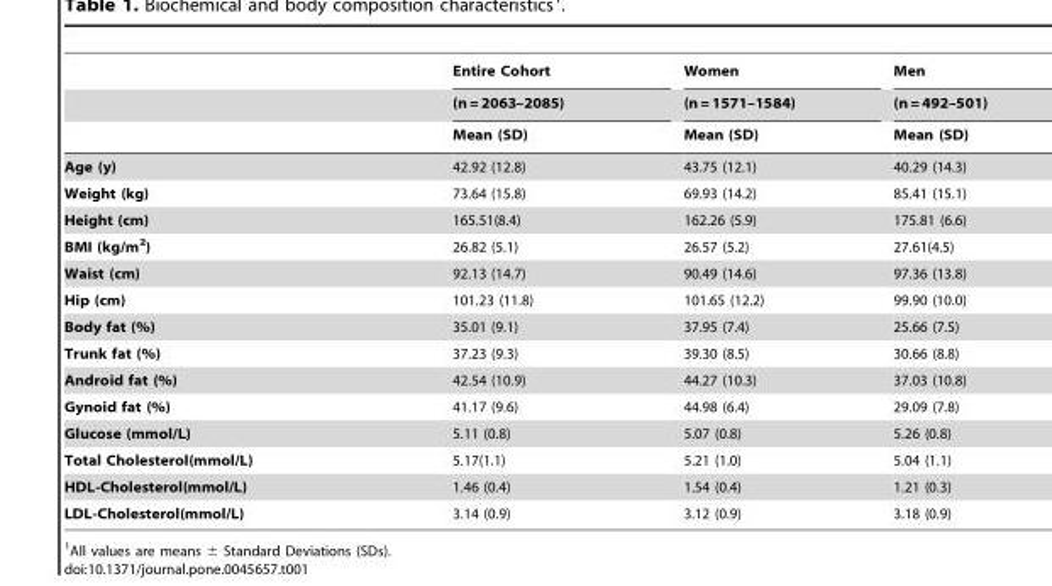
<table><thead><tr><td rowspan="3"></td><td rowspan="3">Entire Cohort (n = 2063–2085) Mean (SD)</td><td rowspan="3">Women (n = 1571–1584) Mean (SD)</td><td rowspan="3">Men (n = 492–501) Mean (SD)</td></tr><tr></tr><tr></tr></thead><tbody><tr><td>Age (y)</td><td>42.92 (12.8)</td><td>43.75 (12.1)</td><td>40.29 (14.3)</td></tr><tr><td>Weight (kg)</td><td>73.64 (15.8)</td><td>69.93 (14.2)</td><td>85.41 (15.1)</td></tr><tr><td>Height (cm)</td><td>165.51(8.4)</td><td>162.26 (5.9)</td><td>175.81 (6.6)</td></tr><tr><td>BMI (kg/m<sup>2</sup>)</td><td>26.82 (5.1)</td><td>26.57 (5.2)</td><td>27.61(4.5)</td></tr><tr><td>Waist (cm)</td><td>92.13 (14.7)</td><td>90.49 (14.6)</td><td>97.36 (13.8)</td></tr><tr><td>Hip (cm)</td><td>101.23 (11.8)</td><td>101.65 (12.2)</td><td>99.90 (10.0)</td></tr><tr><td>Body fat (%)</td><td>35.01 (9.1)</td><td>37.95 (7.4)</td><td>25.66 (7.5)</td></tr><tr><td>Trunk fat (%)</td><td>37.23 (9.3)</td><td>39.30 (8.5)</td><td>30.66 (8.8)</td></tr><tr><td>Android fat (%)</td><td>42.54 (10.9)</td><td>44.27 (10.3)</td><td>37.03 (10.8)</td></tr><tr><td>Gynoid fat (%)</td><td>41.17 (9.6)</td><td>44.98 (6.4)</td><td>29.09 (7.8)</td></tr><tr><td>Glucose (mmol/L)</td><td>5.11 (0.8)</td><td>5.07 (0.8)</td><td>5.26 (0.8)</td></tr><tr><td>Total Cholesterol(mmol/L)</td><td>5.17(1.1)</td><td>5.21 (1.0)</td><td>5.04 (1.1)</td></tr><tr><td>HDL-Cholesterol(mmol/L)</td><td>1.46 (0.4)</td><td>1.54 (0.4)</td><td>1.21 (0.3)</td></tr><tr><td>LDL-Cholesterol(mmol/L)</td><td>3.14 (0.9)</td><td>3.12 (0.9)</td><td>3.18 (0.9)</td></tr></tbody></table>